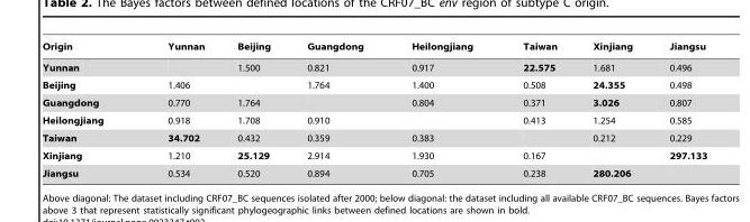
<table><thead><tr><td>Origin</td><td>Yunnan</td><td>Beijing</td><td>Guangdong</td><td>Heilongjiang</td><td>Taiwan</td><td>Xinjiang</td><td>Jiangsu</td></tr></thead><tbody><tr><td>Yunnan</td><td></td><td>1.500</td><td>0.821</td><td>0.917</td><td>22.575</td><td>1.681</td><td>0.496</td></tr><tr><td>Beijing</td><td>1.406</td><td></td><td>1.764</td><td>1.400</td><td>0.508</td><td>24.355</td><td>0.498</td></tr><tr><td>Guangdong</td><td>0.770</td><td>1.764</td><td></td><td>0.804</td><td>0.371</td><td>3.026</td><td>0.807</td></tr><tr><td>Heilongjiang</td><td>0.918</td><td>1.708</td><td>0.910</td><td></td><td>0.413</td><td>1.254</td><td>0.585</td></tr><tr><td>Taiwan</td><td>34.702</td><td>0.432</td><td>0.359</td><td>0.383</td><td></td><td>0.212</td><td>0.229</td></tr><tr><td>Xinjiang</td><td>1.210</td><td>25.129</td><td>2.914</td><td>1.930</td><td>0.167</td><td></td><td>297.133</td></tr><tr><td>Jiangsu</td><td>0.534</td><td>0.520</td><td>0.894</td><td>0.705</td><td>0.238</td><td>280.206</td><td></td></tr></tbody></table>